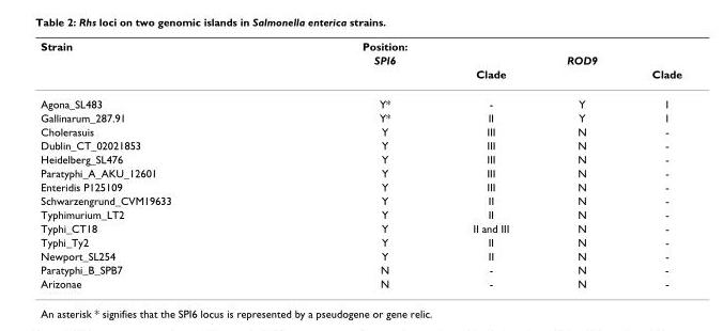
<table><thead><tr><td rowspan="3">Strain</td><td rowspan="3">Position: SPI6</td><td rowspan="3">Clade</td><td rowspan="3">ROD9</td><td rowspan="3">Clade</td></tr><tr></tr><tr></tr></thead><tbody><tr><td>Agona_SL483</td><td>Y*</td><td>-</td><td>Y</td><td>I</td></tr><tr><td>Gallinarum_287.91</td><td>Y*</td><td>II</td><td>Y</td><td>I</td></tr><tr><td>Cholerasuis</td><td>Y</td><td>III</td><td>N</td><td>-</td></tr><tr><td>Dublin_CT_02021853</td><td>Y</td><td>III</td><td>N</td><td>-</td></tr><tr><td>Heidelberg_SL476</td><td>Y</td><td>III</td><td>N</td><td>-</td></tr><tr><td>Paratyphi_A_AKU_12601</td><td>Y</td><td>III</td><td>N</td><td>-</td></tr><tr><td>Enteridis P125109</td><td>Y</td><td>III</td><td>N</td><td>-</td></tr><tr><td>Schwarzengrund_CVM19633</td><td>Y</td><td>II</td><td>N</td><td>-</td></tr><tr><td>Typhimurium_LT2</td><td>Y</td><td>II</td><td>N</td><td>-</td></tr><tr><td>Typhi_CT18</td><td>Y</td><td>II and III</td><td>N</td><td>-</td></tr><tr><td>Typhi_Ty2</td><td>Y</td><td>II</td><td>N</td><td>-</td></tr><tr><td>Newport_SL254</td><td>Y</td><td>II</td><td>N</td><td>-</td></tr><tr><td>Paratyphi_B_SPB7</td><td>N</td><td>-</td><td>N</td><td>-</td></tr><tr><td>Arizonae</td><td>N</td><td>-</td><td>N</td><td>-</td></tr></tbody></table>